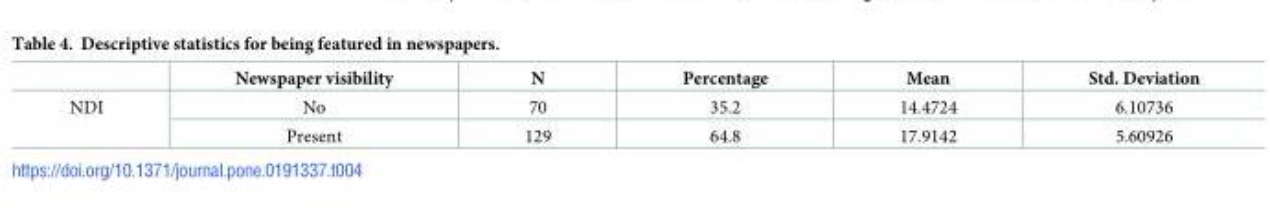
<table><thead><tr><td></td><td>Newspaper visibility</td><td>N</td><td>Percentage</td><td>Mean</td><td>Std. Deviation</td></tr></thead><tbody><tr><td rowspan="2">NDI</td><td>No</td><td>70</td><td>35.2</td><td>14.4724</td><td>6.10736</td></tr><tr><td>Present</td><td>129</td><td>64.8</td><td>17.9142</td><td>5.60926</td></tr></tbody></table>